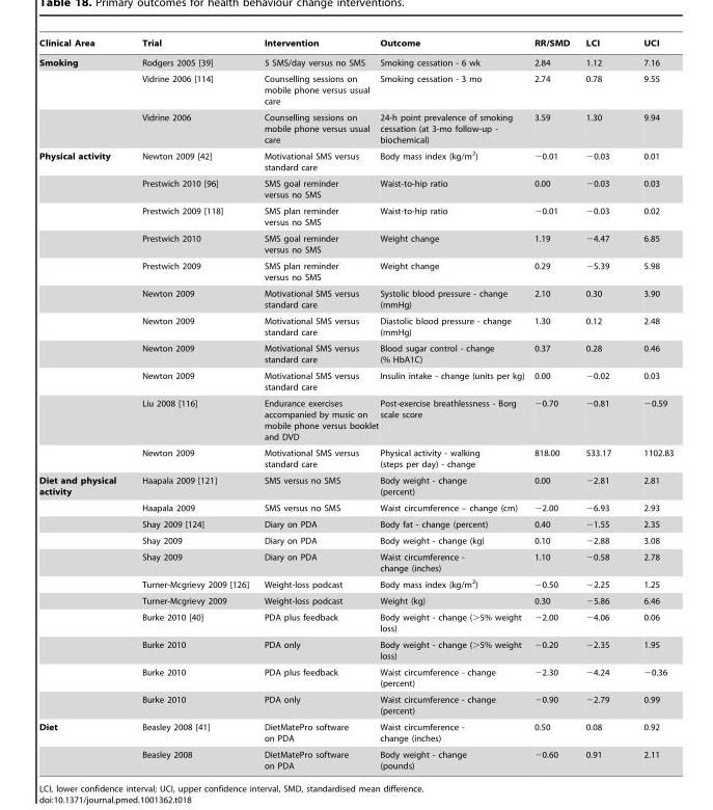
<table><thead><tr><td>Clinical Area</td><td>Trial</td><td>Intervention</td><td>Outcome</td><td>RR/SMD</td><td>LCI</td><td>UCI</td></tr></thead><tbody><tr><td rowspan="3">Smoking</td><td>Rodgers 2005 [39]</td><td>5 SMS/day versus no SMS</td><td>Smoking cessation - 6 wk</td><td>2.84</td><td>1.12</td><td>7.16</td></tr><tr><td>Vidrine 2006 [114]</td><td>Counselling sessions on mobile phone versus usual care</td><td>Smoking cessation - 3 mo</td><td>2.74</td><td>0.78</td><td>9.55</td></tr><tr><td>Vidrine 2006</td><td>Counselling sessions on mobile phone versus usual care</td><td>24-h point prevalence of smoking cessation (at 3-mo follow-up - biochemical)</td><td>3.59</td><td>1.30</td><td>9.94</td></tr><tr><td rowspan="11">Physical activity</td><td>Newton 2009 [42]</td><td>Motivational SMS versus standard care</td><td>Body mass index (kg/m<sup>2</sup>)</td><td>−0.01</td><td>−0.03</td><td>0.01</td></tr><tr><td>Prestwich 2010 [96]</td><td>SMS goal reminder versus no SMS</td><td>Waist-to-hip ratio</td><td>0.00</td><td>−0.03</td><td>0.03</td></tr><tr><td>Prestwich 2009 [118]</td><td>SMS plan reminder versus no SMS</td><td>Waist-to-hip ratio</td><td>−0.01</td><td>−0.03</td><td>0.02</td></tr><tr><td>Prestwich 2010</td><td>SMS goal reminder versus no SMS</td><td>Weight change</td><td>1.19</td><td>−4.47</td><td>6.85</td></tr><tr><td>Prestwich 2009</td><td>SMS plan reminder versus no SMS</td><td>Weight change</td><td>0.29</td><td>−5.39</td><td>5.98</td></tr><tr><td>Newton 2009</td><td>Motivational SMS versus standard care</td><td>Systolic blood pressure - change (mmHg)</td><td>2.10</td><td>0.30</td><td>3.90</td></tr><tr><td>Newton 2009</td><td>Motivational SMS versus standard care</td><td>Diastolic blood pressure - change (mmHg)</td><td>1.30</td><td>0.12</td><td>2.48</td></tr><tr><td>Newton 2009</td><td>Motivational SMS versus standard care</td><td>Blood sugar control - change (% HbA1C)</td><td>0.37</td><td>0.28</td><td>0.46</td></tr><tr><td>Newton 2009</td><td>Motivational SMS versus standard care</td><td>Insulin intake - change (units per kg)</td><td>0.00</td><td>−0.02</td><td>0.03</td></tr><tr><td>Liu 2008 [116]</td><td>Endurance exercises accompanied by music on mobile phone versus booklet and DVD</td><td>Post-exercise breathlessness - Borg scale score</td><td>−0.70</td><td>−0.81</td><td>−0.59</td></tr><tr><td>Newton 2009</td><td>Motivational SMS versus standard care</td><td>Physical activity - walking (steps per day) - change</td><td>818.00</td><td>533.17</td><td>1102.83</td></tr><tr><td rowspan="11">Diet and physical activity</td><td>Haapala 2009 [121]</td><td>SMS versus no SMS</td><td>Body weight - change (percent)</td><td>0.00</td><td>−2.81</td><td>2.81</td></tr><tr><td>Haapala 2009</td><td>SMS versus no SMS</td><td>Waist circumference – change (cm)</td><td>−2.00</td><td>−6.93</td><td>2.93</td></tr><tr><td>Shay 2009 [124]</td><td>Diary on PDA</td><td>Body fat - change (percent)</td><td>0.40</td><td>−1.55</td><td>2.35</td></tr><tr><td>Shay 2009</td><td>Diary on PDA</td><td>Body weight - change (kg)</td><td>0.10</td><td>−2.88</td><td>3.08</td></tr><tr><td>Shay 2009</td><td>Diary on PDA</td><td>Waist circumference - change (inches)</td><td>1.10</td><td>−0.58</td><td>2.78</td></tr><tr><td>Turner-Mcgrievy 2009 [126]</td><td>Weight-loss podcast</td><td>Body mass index (kg/m<sup>2</sup>)</td><td>−0.50</td><td>−2.25</td><td>1.25</td></tr><tr><td>Turner-Mcgrievy 2009</td><td>Weight-loss podcast</td><td>Weight (kg)</td><td>0.30</td><td>−5.86</td><td>6.46</td></tr><tr><td>Burke 2010 [40]</td><td>PDA plus feedback</td><td>Body weight - change (&gt;5% weight loss)</td><td>−2.00</td><td>−4.06</td><td>0.06</td></tr><tr><td>Burke 2010</td><td>PDA only</td><td>Body weight - change (&gt;5% weight loss)</td><td>−0.20</td><td>−2.35</td><td>1.95</td></tr><tr><td>Burke 2010</td><td>PDA plus feedback</td><td>Waist circumference - change (percent)</td><td>−2.30</td><td>−4.24</td><td>−0.36</td></tr><tr><td>Burke 2010</td><td>PDA only</td><td>Waist circumference - change (percent)</td><td>−0.90</td><td>−2.79</td><td>0.99</td></tr><tr><td rowspan="2">Diet</td><td>Beasley 2008 [41]</td><td>DietMatePro software on PDA</td><td>Waist circumference - change (inches)</td><td>0.50</td><td>0.08</td><td>0.92</td></tr><tr><td>Beasley 2008</td><td>DietMatePro software on PDA</td><td>Body weight - change (pounds)</td><td>−0.60</td><td>0.91</td><td>2.11</td></tr></tbody></table>